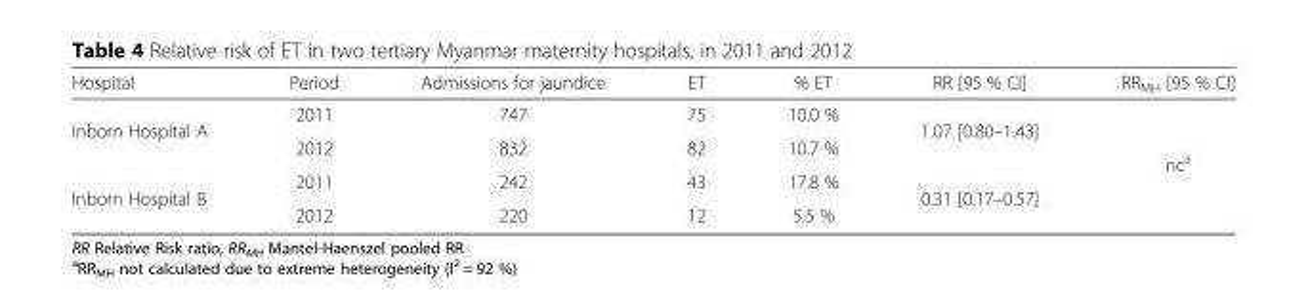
<table><thead><tr><td>Hospital</td><td>Period</td><td>Admissions for jaundice</td><td>ET</td><td>% ET</td><td>RR [95 % CI]</td><td>RR<sub>MH</sub> [95 % CI]</td></tr></thead><tbody><tr><td rowspan="2">Inborn Hospital A</td><td>2011</td><td>747</td><td>75</td><td>10.0 %</td><td rowspan="2">1.07 [0.80–1.43]</td><td rowspan="4">nc<sup>a</sup></td></tr><tr><td>2012</td><td>832</td><td>82</td><td>10.7 %</td></tr><tr><td rowspan="2">Inborn Hospital B</td><td>2011</td><td>242</td><td>43</td><td>17.8 %</td><td rowspan="2">0.31 [0.17–0.57]</td></tr><tr><td>2012</td><td>220</td><td>12</td><td>5.5 %</td></tr></tbody></table>